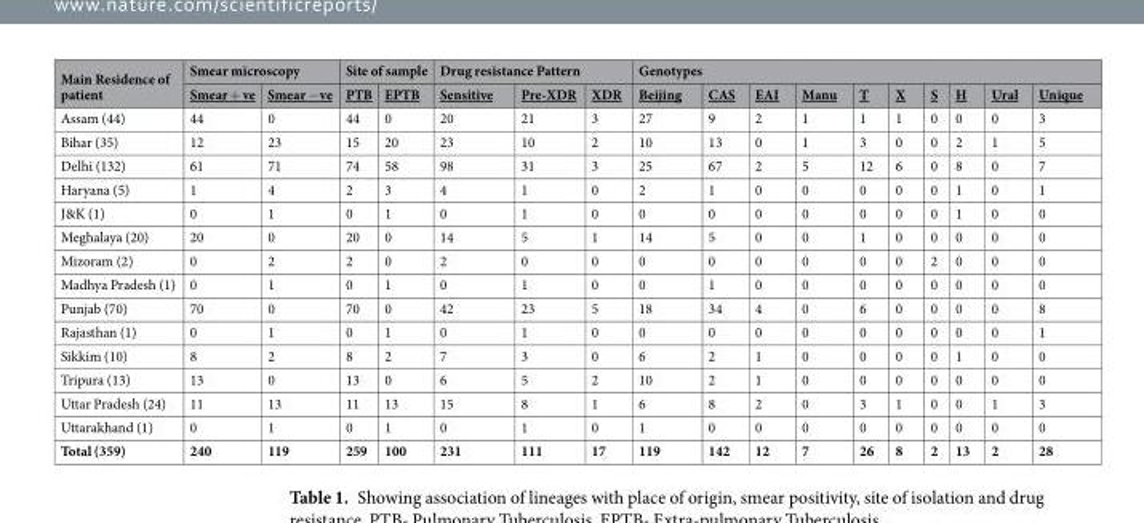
<table><thead><tr><td rowspan="2">Main Residence of patient</td><td colspan="2">Smear microscopy</td><td colspan="2">Site of sample</td><td colspan="3">Drug resistance Pattern</td><td colspan="10">Genotypes</td></tr><tr><td>Smear + ve</td><td>Smear −ve</td><td>PTB</td><td>EPTB</td><td>Sensitive</td><td>Pre-XDR</td><td>XDR</td><td>Beijing</td><td>CAS</td><td>EAI</td><td>Manu</td><td>T</td><td>X</td><td>S</td><td>H</td><td>Ural</td><td>Unique</td></tr></thead><tbody><tr><td>Assam (44)</td><td>44</td><td>0</td><td>44</td><td>0</td><td>20</td><td>21</td><td>3</td><td>27</td><td>9</td><td>2</td><td>1</td><td>1</td><td>1</td><td>0</td><td>0</td><td>0</td><td>3</td></tr><tr><td>Bihar (35)</td><td>12</td><td>23</td><td>15</td><td>20</td><td>23</td><td>10</td><td>2</td><td>10</td><td>13</td><td>0</td><td>1</td><td>3</td><td>0</td><td>0</td><td>2</td><td>1</td><td>5</td></tr><tr><td>Delhi (132)</td><td>61</td><td>71</td><td>74</td><td>58</td><td>98</td><td>31</td><td>3</td><td>25</td><td>67</td><td>2</td><td>5</td><td>12</td><td>6</td><td>0</td><td>8</td><td>0</td><td>7</td></tr><tr><td>Haryana (5)</td><td>1</td><td>4</td><td>2</td><td>3</td><td>4</td><td>1</td><td>0</td><td>2</td><td>1</td><td>0</td><td>0</td><td>0</td><td>0</td><td>0</td><td>1</td><td>0</td><td>1</td></tr><tr><td>J&amp;K (1)</td><td>0</td><td>1</td><td>0</td><td>1</td><td>0</td><td>1</td><td>0</td><td>0</td><td>0</td><td>0</td><td>0</td><td>0</td><td>0</td><td>0</td><td>1</td><td>0</td><td>0</td></tr><tr><td>Meghalaya (20)</td><td>20</td><td>0</td><td>20</td><td>0</td><td>14</td><td>5</td><td>1</td><td>14</td><td>5</td><td>0</td><td>0</td><td>1</td><td>0</td><td>0</td><td>0</td><td>0</td><td>0</td></tr><tr><td>Mizoram (2)</td><td>0</td><td>2</td><td>2</td><td>0</td><td>2</td><td>0</td><td>0</td><td>0</td><td>0</td><td>0</td><td>0</td><td>0</td><td>0</td><td>2</td><td>0</td><td>0</td><td>0</td></tr><tr><td>Madhya Pradesh (1)</td><td>0</td><td>1</td><td>0</td><td>1</td><td>0</td><td>1</td><td>0</td><td>0</td><td>1</td><td>0</td><td>0</td><td>0</td><td>0</td><td>0</td><td>0</td><td>0</td><td>0</td></tr><tr><td>Punjab (70)</td><td>70</td><td>0</td><td>70</td><td>0</td><td>42</td><td>23</td><td>5</td><td>18</td><td>34</td><td>4</td><td>0</td><td>6</td><td>0</td><td>0</td><td>0</td><td>0</td><td>8</td></tr><tr><td>Rajasthan (1)</td><td>0</td><td>1</td><td>0</td><td>1</td><td>0</td><td>1</td><td>0</td><td>0</td><td>0</td><td>0</td><td>0</td><td>0</td><td>0</td><td>0</td><td>0</td><td>0</td><td>1</td></tr><tr><td>Sikkim (10)</td><td>8</td><td>2</td><td>8</td><td>2</td><td>7</td><td>3</td><td>0</td><td>6</td><td>2</td><td>1</td><td>0</td><td>0</td><td>0</td><td>0</td><td>1</td><td>0</td><td>0</td></tr><tr><td>Tripura (13)</td><td>13</td><td>0</td><td>13</td><td>0</td><td>6</td><td>5</td><td>2</td><td>10</td><td>2</td><td>1</td><td>0</td><td>0</td><td>0</td><td>0</td><td>0</td><td>0</td><td>0</td></tr><tr><td>Uttar Pradesh (24)</td><td>11</td><td>13</td><td>11</td><td>13</td><td>15</td><td>8</td><td>1</td><td>6</td><td>8</td><td>2</td><td>0</td><td>3</td><td>1</td><td>0</td><td>0</td><td>1</td><td>3</td></tr><tr><td>Uttarakhand (1)</td><td>0</td><td>1</td><td>0</td><td>1</td><td>0</td><td>1</td><td>0</td><td>1</td><td>0</td><td>0</td><td>0</td><td>0</td><td>0</td><td>0</td><td>0</td><td>0</td><td>0</td></tr><tr><td>Total (359)</td><td>240</td><td>119</td><td>259</td><td>100</td><td>231</td><td>111</td><td>17</td><td>119</td><td>142</td><td>12</td><td>7</td><td>26</td><td>8</td><td>2</td><td>13</td><td>2</td><td>28</td></tr></tbody></table>